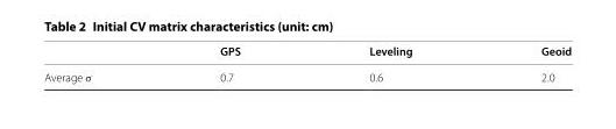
<table><thead><tr><td></td><td>GPS</td><td>Leveling</td><td>Geoid</td></tr></thead><tbody><tr><td>Average σ</td><td>0.7</td><td>0.6</td><td>2.0</td></tr></tbody></table>